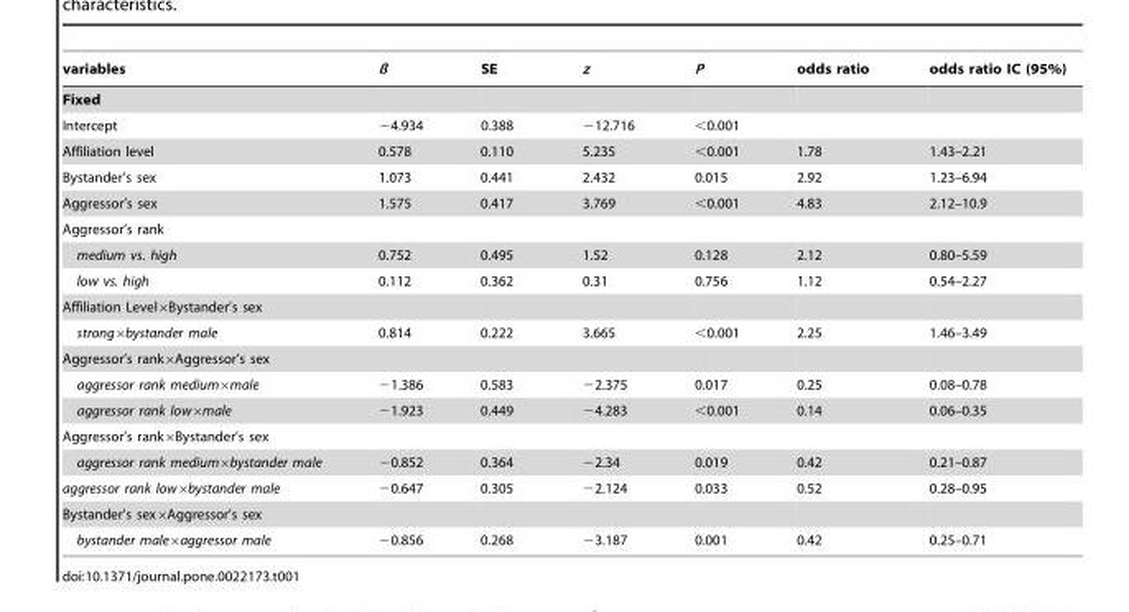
<table><thead><tr><td>variables</td><td>ß</td><td>SE</td><td>z</td><td>P</td><td>odds ratio</td><td>odds ratio IC (95%)</td></tr></thead><tbody><tr><td colspan="7">Fixed</td></tr><tr><td>Intercept</td><td>−4.934</td><td>0.388</td><td>−12.716</td><td>&lt;0.001</td><td></td><td></td></tr><tr><td>Affiliation level</td><td>0.578</td><td>0.110</td><td>5.235</td><td>&lt;0.001</td><td>1.78</td><td>1.43–2.21</td></tr><tr><td>Bystander’s sex</td><td>1.073</td><td>0.441</td><td>2.432</td><td>0.015</td><td>2.92</td><td>1.23–6.94</td></tr><tr><td>Aggressor’s sex</td><td>1.575</td><td>0.417</td><td>3.769</td><td>&lt;0.001</td><td>4.83</td><td>2.12–10.9</td></tr><tr><td colspan="7">Aggressor’s rank</td></tr><tr><td>medium vs. high</td><td>0.752</td><td>0.495</td><td>1.52</td><td>0.128</td><td>2.12</td><td>0.80–5.59</td></tr><tr><td>low vs. high</td><td>0.112</td><td>0.362</td><td>0.31</td><td>0.756</td><td>1.12</td><td>0.54–2.27</td></tr><tr><td colspan="7">Affiliation Level×Bystander’s sex</td></tr><tr><td>strong×bystander male</td><td>0.814</td><td>0.222</td><td>3.665</td><td>&lt;0.001</td><td>2.25</td><td>1.46–3.49</td></tr><tr><td colspan="7">Aggressor’s rank×Aggressor’s sex</td></tr><tr><td>aggressor rank medium×male</td><td>−1.386</td><td>0.583</td><td>−2.375</td><td>0.017</td><td>0.25</td><td>0.08–0.78</td></tr><tr><td>aggressor rank low×male</td><td>−1.923</td><td>0.449</td><td>−4.283</td><td>&lt;0.001</td><td>0.14</td><td>0.06–0.35</td></tr><tr><td colspan="7">Aggressor’s rank×Bystander’s sex</td></tr><tr><td>aggressor rank medium×bystander male</td><td>−0.852</td><td>0.364</td><td>−2.34</td><td>0.019</td><td>0.42</td><td>0.21–0.87</td></tr><tr><td>aggressor rank low×bystander male</td><td>−0.647</td><td>0.305</td><td>−2.124</td><td>0.033</td><td>0.52</td><td>0.28–0.95</td></tr><tr><td colspan="7">Bystander’s sex×Aggressor’s sex</td></tr><tr><td>bystander male×aggressor male</td><td>−0.856</td><td>0.268</td><td>−3.187</td><td>0.001</td><td>0.42</td><td>0.25–0.71</td></tr></tbody></table>